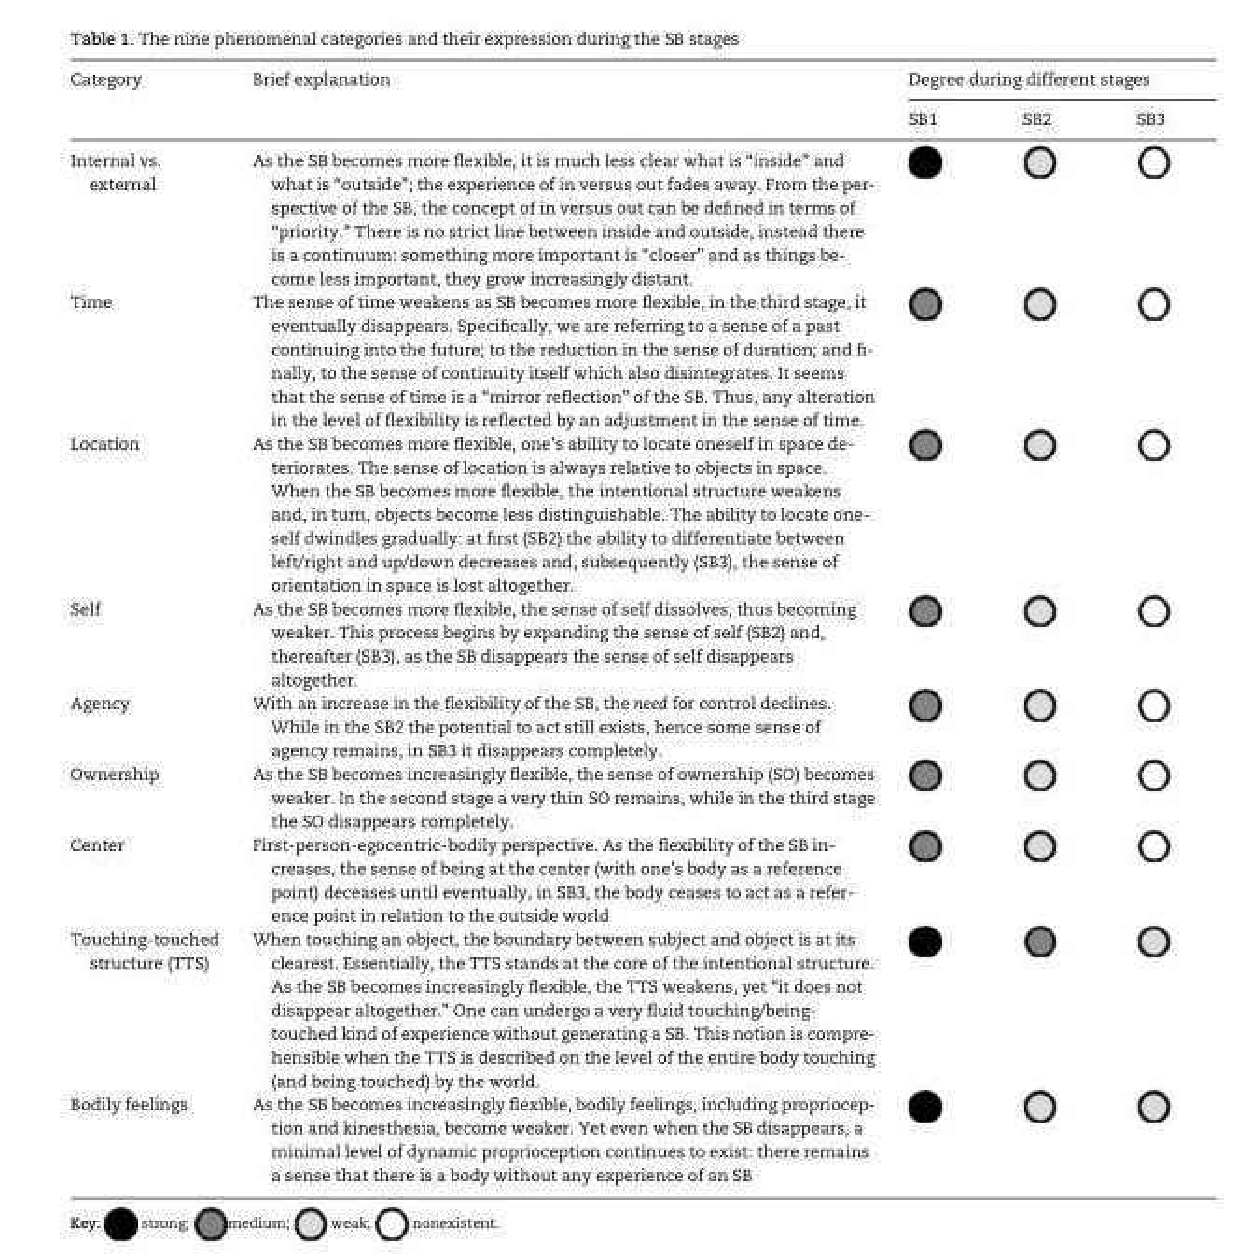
<table><thead><tr><td rowspan="2">Category</td><td rowspan="2">Brief explanation</td><td colspan="3">Degree during different stages</td></tr><tr><td>SB1</td><td>SB2</td><td>SB3</td></tr></thead><tbody><tr><td>Internal vs. external</td><td>As the SB becomes more flexible, it is much less clear what is “inside” and what is “outside”; the experience of in versus out fades away. From the per- spective of the SB, the concept of in versus out can be defined in terms of “priority.” There is no strict line between inside and outside, instead there is a continuum: something more important is “closer” and as things be- come less important, they grow increasingly distant.</td><td></td><td></td><td></td></tr><tr><td>Time</td><td>The sense of time weakens as SB becomes more flexible, in the third stage, it eventually disappears. Specifically, we are referring to a sense of a past continuing into the future; to the reduction in the sense of duration; and fi- nally, to the sense of continuity itself which also disintegrates. It seems that the sense of time is a “mirror reflection” of the SB. Thus, any alteration in the level of flexibility is reflected by an adjustment in the sense of time.</td><td></td><td></td><td></td></tr><tr><td>Location</td><td>As the SB becomes more flexible, one’s ability to locate oneself in space de- teriorates. The sense of location is always relative to objects in space. When the SB becomes more flexible, the intentional structure weakens and, in turn, objects become less distinguishable. The ability to locate one- self dwindles gradually: at first (SB2) the ability to differentiate between left/right and up/down decreases and, subsequently (SB3), the sense of orientation in space is lost altogether.</td><td></td><td></td><td></td></tr><tr><td>Self</td><td>As the SB becomes more flexible, the sense of self dissolves, thus becoming weaker. This process begins by expanding the sense of self (SB2) and, thereafter (SB3), as the SB disappears the sense of self disappears altogether.</td><td></td><td></td><td></td></tr><tr><td>Agency</td><td>With an increase in the flexibility of the SB, the need for control declines. While in the SB2 the potential to act still exists, hence some sense of agency remains, in SB3 it disappears completely.</td><td></td><td></td><td></td></tr><tr><td>Ownership</td><td>As the SB becomes increasingly flexible, the sense of ownership (SO) becomes weaker. In the second stage a very thin SO remains, while in the third stage the SO disappears completely.</td><td></td><td></td><td></td></tr><tr><td>Center</td><td>First-person-egocentric-bodily perspective. As the flexibility of the SB in- creases, the sense of being at the center (with one’s body as a reference point) deceases until eventually, in SB3, the body ceases to act as a refer- ence point in relation to the outside world</td><td></td><td></td><td></td></tr><tr><td>Touching-touched structure (TTS)</td><td>When touching an object, the boundary between subject and object is at its clearest. Essentially, the TTS stands at the core of the intentional structure. As the SB becomes increasingly flexible, the TTS weakens, yet “it does not disappear altogether.” One can undergo a very fluid touching/being- touched kind of experience without generating a SB. This notion is compre- hensible when the TTS is described on the level of the entire body touching (and being touched) by the world.</td><td></td><td></td><td></td></tr><tr><td>Bodily feelings</td><td>As the SB becomes increasingly flexible, bodily feelings, including propriocep- tion and kinesthesia, become weaker. Yet even when the SB disappears, a minimal level of dynamic proprioception continues to exist: there remains a sense that there is a body without any experience of an SB</td><td></td><td></td><td></td></tr></tbody></table>